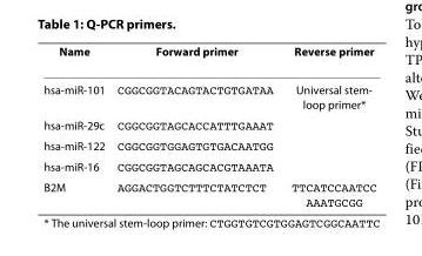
<table><thead><tr><td>Name</td><td>Forward primer</td><td>Reverse primer</td></tr></thead><tbody><tr><td>hsa-miR-101</td><td>CGGCGGTACAGTACTGTGATAA</td><td>Universal stem- loop primer*</td></tr><tr><td>hsa-miR-29c</td><td>CGGCGGTAGCACCATTTGAAAT</td><td></td></tr><tr><td>hsa-miR-122</td><td>CGGCGGTGGAGTGTGACAATGG</td><td></td></tr><tr><td>hsa-miR-16</td><td>CGGCGGTAGCAGCACGTAAATA</td><td></td></tr><tr><td>B2M</td><td>AGGACTGGTCTTTCTATCTCT</td><td>TTCATCCAATCC AAATGCGG</td></tr></tbody></table>